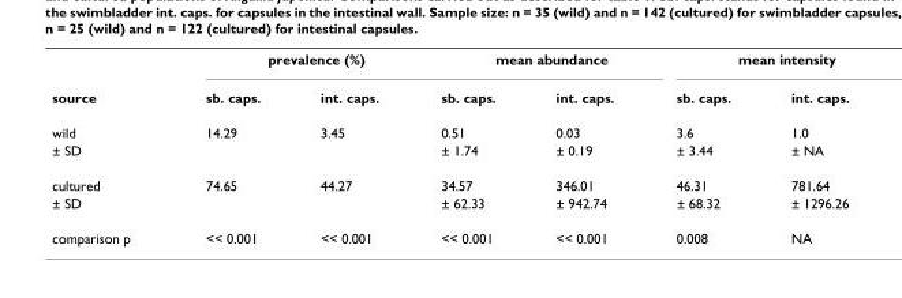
<table><thead><tr><td rowspan="2">source</td><td colspan="2">prevalence (%)</td><td colspan="2">mean abundance</td><td colspan="2">mean intensity</td></tr><tr><td>sb. caps.</td><td>int. caps.</td><td>sb. caps.</td><td>int. caps.</td><td>sb. caps.</td><td>int. caps.</td></tr></thead><tbody><tr><td>wild</td><td>14.29</td><td>3.45</td><td>0.51</td><td>0.03</td><td>3.6</td><td>1.0</td></tr><tr><td>± SD</td><td></td><td></td><td>± 1.74</td><td>± 0.19</td><td>± 3.44</td><td>± NA</td></tr><tr><td>cultured</td><td>74.65</td><td>44.27</td><td>34.57</td><td>346.01</td><td>46.31</td><td>781.64</td></tr><tr><td>± SD</td><td></td><td></td><td>± 62.33</td><td>± 942.74</td><td>± 68.32</td><td>± 1296.26</td></tr><tr><td>comparison p</td><td>&lt;&lt; 0.001</td><td>&lt;&lt; 0.001</td><td>&lt;&lt; 0.001</td><td>&lt;&lt; 0.001</td><td>0.008</td><td>NA</td></tr></tbody></table>